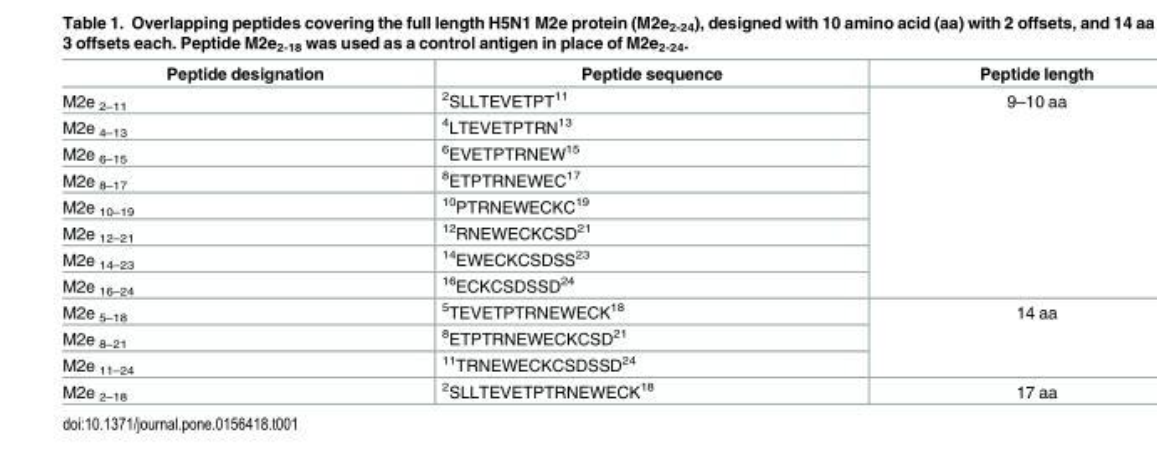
<table><thead><tr><td>Peptide designation</td><td>Peptide sequence</td><td>Peptide length</td></tr></thead><tbody><tr><td>M2e <sub>2–11</sub></td><td><sup>2</sup>SLLTEVETPT<sup>11</sup></td><td rowspan="8">9–10 aa</td></tr><tr><td>M2e <sub>4–13</sub></td><td><sup>4</sup>LTEVETPTRN<sup>13</sup></td></tr><tr><td>M2e <sub>6–15</sub></td><td><sup>6</sup>EVETPTRNEW<sup>15</sup></td></tr><tr><td>M2e <sub>8–17</sub></td><td><sup>8</sup>ETPTRNEWEC<sup>17</sup></td></tr><tr><td>M2e <sub>10–19</sub></td><td><sup>10</sup>PTRNEWECKC<sup>19</sup></td></tr><tr><td>M2e <sub>12–21</sub></td><td><sup>12</sup>RNEWECKCSD<sup>21</sup></td></tr><tr><td>M2e <sub>14–23</sub></td><td><sup>14</sup>EWECKCSDSS<sup>23</sup></td></tr><tr><td>M2e <sub>16–24</sub></td><td><sup>16</sup>ECKCSDSSD<sup>24</sup></td></tr><tr><td>M2e <sub>5–18</sub></td><td><sup>5</sup>TEVETPTRNEWECK<sup>18</sup></td><td rowspan="3">14 aa</td></tr><tr><td>M2e <sub>8–21</sub></td><td><sup>8</sup>ETPTRNEWECKCSD<sup>21</sup></td></tr><tr><td>M2e <sub>11–24</sub></td><td><sup>11</sup>TRNEWECKCSDSSD<sup>24</sup></td></tr><tr><td>M2e <sub>2–18</sub></td><td><sup>2</sup>SLLTEVETPTRNEWECK<sup>18</sup></td><td>17 aa</td></tr></tbody></table>